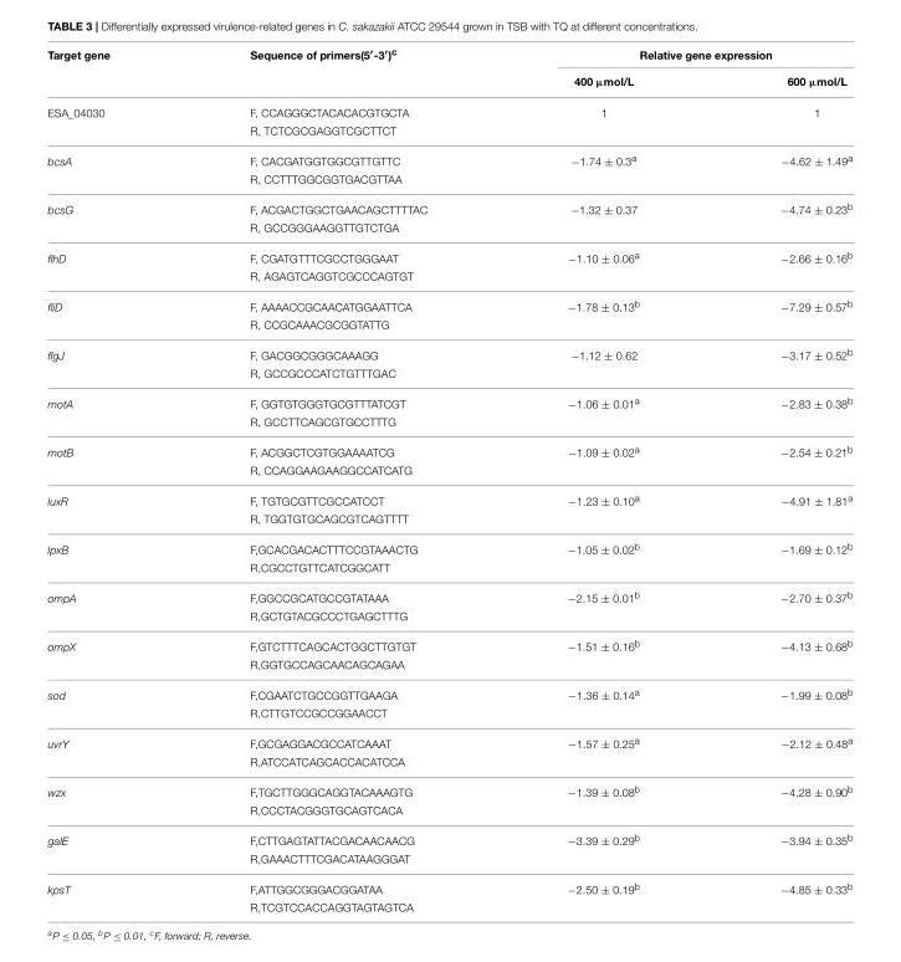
<table><thead><tr><td rowspan="2">Target gene</td><td rowspan="2">Sequence of primers(5′-3′)<sup>c</sup></td><td colspan="2">Relative gene expression</td></tr><tr><td>400 µmol/L</td><td>600 µmol/L</td></tr></thead><tbody><tr><td rowspan="2">ESA_04030</td><td>F, CCAGGGCTACACACGTGCTA</td><td>1</td><td>1</td></tr><tr><td>R, TCTCGCGAGGTCGCTTCT</td><td></td><td></td></tr><tr><td rowspan="2">bcsA</td><td>F, CACGATGGTGGCGTTGTTC</td><td>−1.74 ± 0.3<sup>a</sup></td><td>−4.62 ± 1.49<sup>a</sup></td></tr><tr><td>R, CCTTTGGCGGTGACGTTAA</td><td></td><td></td></tr><tr><td rowspan="2">bcsG</td><td>F, ACGACTGGCTGAACAGCTTTTAC</td><td>−1.32 ± 0.37</td><td>−4.74 ± 0.23<sup>b</sup></td></tr><tr><td>R, GCCGGGAAGGTTGTCTGA</td><td></td><td></td></tr><tr><td rowspan="2">flhD</td><td>F, CGATGTTTCGCCTGGGAAT</td><td>−1.10 ± 0.06<sup>a</sup></td><td>−2.66 ± 0.16<sup>b</sup></td></tr><tr><td>R, AGAGTCAGGTCGCCCAGTGT</td><td></td><td></td></tr><tr><td rowspan="2">fliD</td><td>F, AAAACCGCAACATGGAATTCA</td><td>−1.78 ± 0.13<sup>b</sup></td><td>−7.29 ± 0.57<sup>b</sup></td></tr><tr><td>R, CCGCAAACGCGGTATTG</td><td></td><td></td></tr><tr><td rowspan="2">flgJ</td><td>F, GACGGCGGGCAAAGG</td><td>−1.12 ± 0.62</td><td>−3.17 ± 0.52<sup>b</sup></td></tr><tr><td>R, GCCGCCCATCTGTTTGAC</td><td></td><td></td></tr><tr><td rowspan="2">motA</td><td>F, GGTGTGGGTGCGTTTATCGT</td><td>−1.06 ± 0.01<sup>a</sup></td><td>−2.83 ± 0.38<sup>b</sup></td></tr><tr><td>R, GCCTTCAGCGTGCCTTTG</td><td></td><td></td></tr><tr><td rowspan="2">motB</td><td>F, ACGGCTCGTGGAAAATCG</td><td>−1.09 ± 0.02<sup>a</sup></td><td>−2.54 ± 0.21<sup>b</sup></td></tr><tr><td>R, CCAGGAAGAAGGCCATCATG</td><td></td><td></td></tr><tr><td rowspan="2">luxR</td><td>F, TGTGCGTTCGCCATCCT</td><td>−1.23 ± 0.10<sup>a</sup></td><td>−4.91 ± 1.81<sup>a</sup></td></tr><tr><td>R, TGGTGTGCAGCGTCAGTTTT</td><td></td><td></td></tr><tr><td rowspan="2">lpxB</td><td>F,GCACGACACTTTCCGTAAACTG</td><td>−1.05 ± 0.02<sup>b</sup></td><td>−1.69 ± 0.12<sup>b</sup></td></tr><tr><td>R,CGCCTGTTCATCGGCATT</td><td></td><td></td></tr><tr><td rowspan="2">ompA</td><td>F,GGCCGCATGCCGTATAAA</td><td>−2.15 ± 0.01<sup>b</sup></td><td>−2.70 ± 0.37<sup>b</sup></td></tr><tr><td>R,GCTGTACGCCCTGAGCTTTG</td><td></td><td></td></tr><tr><td rowspan="2">ompX</td><td>F,GTCTTTCAGCACTGGCTTGTGT</td><td>−1.51 ± 0.16<sup>b</sup></td><td>−4.13 ± 0.68<sup>b</sup></td></tr><tr><td>R,GGTGCCAGCAACAGCAGAA</td><td></td><td></td></tr><tr><td rowspan="2">sod</td><td>F,CGAATCTGCCGGTTGAAGA</td><td>−1.36 ± 0.14<sup>a</sup></td><td>−1.99 ± 0.08<sup>b</sup></td></tr><tr><td>R,CTTGTCCGCCGGAACCT</td><td></td><td></td></tr><tr><td rowspan="2">uvrY</td><td>F,GCGAGGACGCCATCAAAT</td><td>−1.57 ± 0.25<sup>a</sup></td><td>−2.12 ± 0.48<sup>a</sup></td></tr><tr><td>R,ATCCATCAGCACCACATCCA</td><td></td><td></td></tr><tr><td rowspan="2">wzx</td><td>F,TGCTTGGGCAGGTACAAAGTG</td><td>−1.39 ± 0.08<sup>b</sup></td><td>−4.28 ± 0.90<sup>b</sup></td></tr><tr><td>R,CCCTACGGGTGCAGTCACA</td><td></td><td></td></tr><tr><td rowspan="2">galE</td><td>F,CTTGAGTATTACGACAACAACG</td><td>−3.39 ± 0.29<sup>b</sup></td><td>−3.94 ± 0.35<sup>b</sup></td></tr><tr><td>R,GAAACTTTCGACATAAGGGAT</td><td></td><td></td></tr><tr><td rowspan="2">kpsT</td><td>F,ATTGGCGGGACGGATAA</td><td>−2.50 ± 0.19<sup>b</sup></td><td>−4.85 ± 0.33<sup>b</sup></td></tr><tr><td>R,TCGTCCACCAGGTAGTAGTCA</td><td></td><td></td></tr></tbody></table>